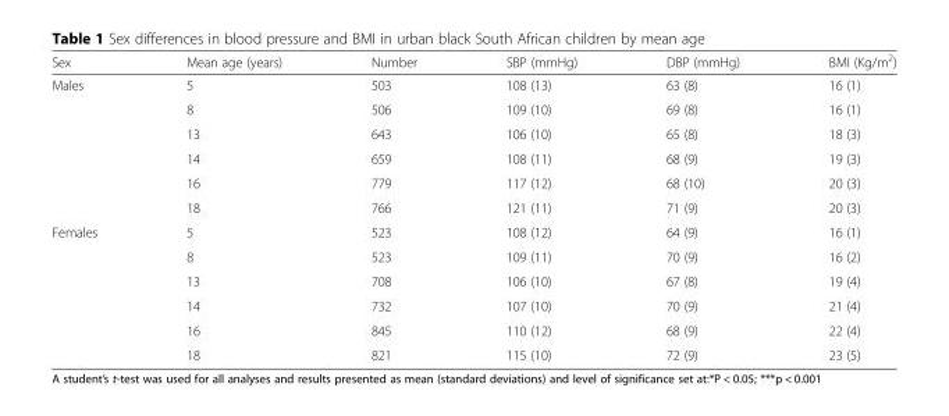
<table><thead><tr><td>Sex</td><td>Mean age (years)</td><td>Number</td><td>SBP (mmHg)</td><td>DBP (mmHg)</td><td>BMI (Kg/m<sup>2</sup>)</td></tr></thead><tbody><tr><td rowspan="6">Males</td><td>5</td><td>503</td><td>108 (13)</td><td>63 (8)</td><td>16 (1)</td></tr><tr><td>8</td><td>506</td><td>109 (10)</td><td>69 (8)</td><td>16 (1)</td></tr><tr><td>13</td><td>643</td><td>106 (10)</td><td>65 (8)</td><td>18 (3)</td></tr><tr><td>14</td><td>659</td><td>108 (11)</td><td>68 (9)</td><td>19 (3)</td></tr><tr><td>16</td><td>779</td><td>117 (12)</td><td>68 (10)</td><td>20 (3)</td></tr><tr><td>18</td><td>766</td><td>121 (11)</td><td>71 (9)</td><td>20 (3)</td></tr><tr><td rowspan="6">Females</td><td>5</td><td>523</td><td>108 (12)</td><td>64 (9)</td><td>16 (1)</td></tr><tr><td>8</td><td>523</td><td>109 (11)</td><td>70 (9)</td><td>16 (2)</td></tr><tr><td>13</td><td>708</td><td>106 (10)</td><td>67 (8)</td><td>19 (4)</td></tr><tr><td>14</td><td>732</td><td>107 (10)</td><td>70 (9)</td><td>21 (4)</td></tr><tr><td>16</td><td>845</td><td>110 (12)</td><td>68 (9)</td><td>22 (4)</td></tr><tr><td>18</td><td>821</td><td>115 (10)</td><td>72 (9)</td><td>23 (5)</td></tr></tbody></table>